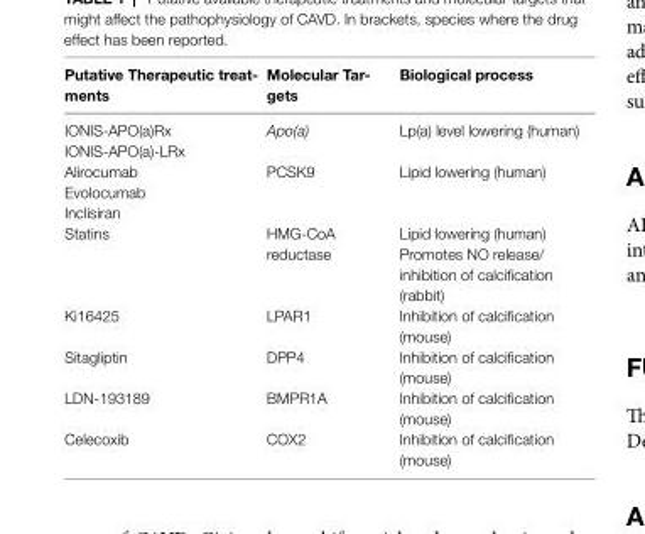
<table><thead><tr><td>Putative Therapeutic treat- ments</td><td>Molecular Tar- gets</td><td>biological process</td></tr></thead><tbody><tr><td>IONIS-APO(a)<sub>Rx</sub> IONIS-APO(a)-L<sub>Rx</sub></td><td>Apo(a)</td><td>Lp(a) level lowering (human)</td></tr><tr><td>Alirocumab Evolocumab Inclisiran</td><td>PCSK9</td><td>Lipid lowering (human)</td></tr><tr><td>Statins</td><td>HMG-CoA reductase</td><td>Lipid lowering (human) Promotes NO release/ inhibition of calcification (rabbit)</td></tr><tr><td>Ki16425</td><td>LPAR1</td><td>Inhibition of calcification (mouse)</td></tr><tr><td>Sitagliptin</td><td>DPP4</td><td>Inhibition of calcification (mouse)</td></tr><tr><td>LDN-193189</td><td>BMPR1A</td><td>Inhibition of calcification (mouse)</td></tr><tr><td>Celecoxib</td><td>COX2</td><td>Inhibition of calcification (mouse)</td></tr></tbody></table>